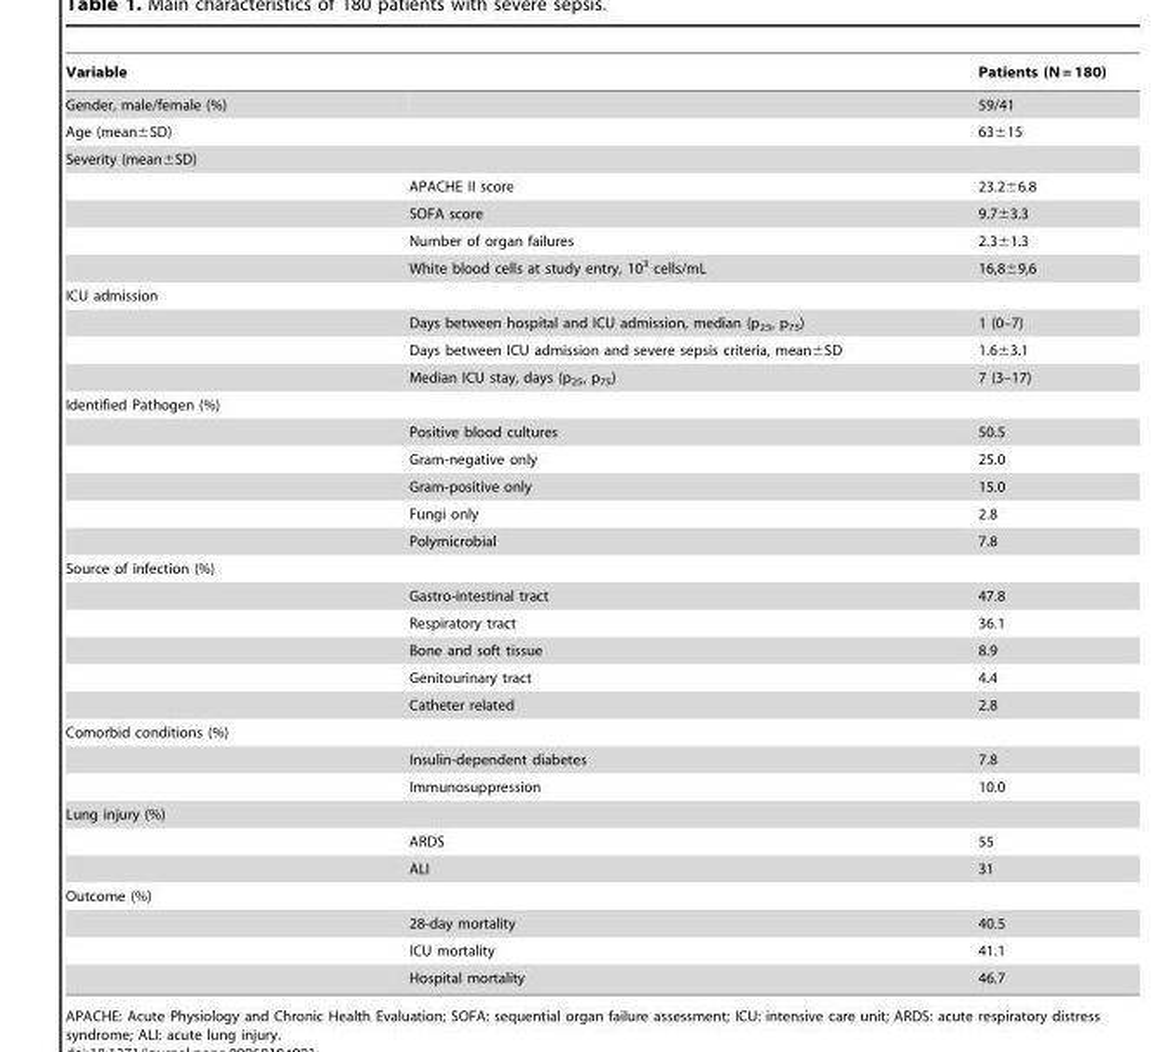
<table><thead><tr><td>Variable</td><td></td><td>Patients (N = 180)</td></tr></thead><tbody><tr><td>Gender, male/female (%)</td><td></td><td>59/41</td></tr><tr><td>Age (mean±SD)</td><td></td><td>63±15</td></tr><tr><td colspan="3">Severity (mean±SD)</td></tr><tr><td></td><td>APACHE II score</td><td>23.2±6.8</td></tr><tr><td></td><td>SOFA score</td><td>9.7±3.3</td></tr><tr><td></td><td>Number of organ failures</td><td>2.3±1.3</td></tr><tr><td></td><td>White blood cells at study entry, 10<sup>3</sup> cells/mL</td><td>16,8±9,6</td></tr><tr><td colspan="3">ICU admission</td></tr><tr><td></td><td>Days between hospital and ICU admission, median (p<sub>25</sub>, p<sub>75</sub>)</td><td>1 (0–7)</td></tr><tr><td></td><td>Days between ICU admission and severe sepsis criteria, mean±SD</td><td>1.6±3.1</td></tr><tr><td></td><td>Median ICU stay, days (p<sub>25</sub>, p<sub>75</sub>)</td><td>7 (3–17)</td></tr><tr><td colspan="3">Identified Pathogen (%)</td></tr><tr><td></td><td>Positive blood cultures</td><td>50.5</td></tr><tr><td></td><td>Gram-negative only</td><td>25.0</td></tr><tr><td></td><td>Gram-positive only</td><td>15.0</td></tr><tr><td></td><td>Fungi only</td><td>2.8</td></tr><tr><td></td><td>Polymicrobial</td><td>7.8</td></tr><tr><td colspan="3">Source of infection (%)</td></tr><tr><td></td><td>Gastro-intestinal tract</td><td>47.8</td></tr><tr><td></td><td>Respiratory tract</td><td>36.1</td></tr><tr><td></td><td>Bone and soft tissue</td><td>8.9</td></tr><tr><td></td><td>Genitourinary tract</td><td>4.4</td></tr><tr><td></td><td>Catheter related</td><td>2.8</td></tr><tr><td colspan="3">Comorbid conditions (%)</td></tr><tr><td></td><td>Insulin-dependent diabetes</td><td>7.8</td></tr><tr><td></td><td>Immunosuppression</td><td>10.0</td></tr><tr><td colspan="3">Lung injury (%)</td></tr><tr><td></td><td>ARDS</td><td>55</td></tr><tr><td></td><td>ALI</td><td>31</td></tr><tr><td colspan="3">Outcome (%)</td></tr><tr><td></td><td>28-day mortality</td><td>40.5</td></tr><tr><td></td><td>ICU mortality</td><td>41.1</td></tr><tr><td></td><td>Hospital mortality</td><td>46.7</td></tr></tbody></table>